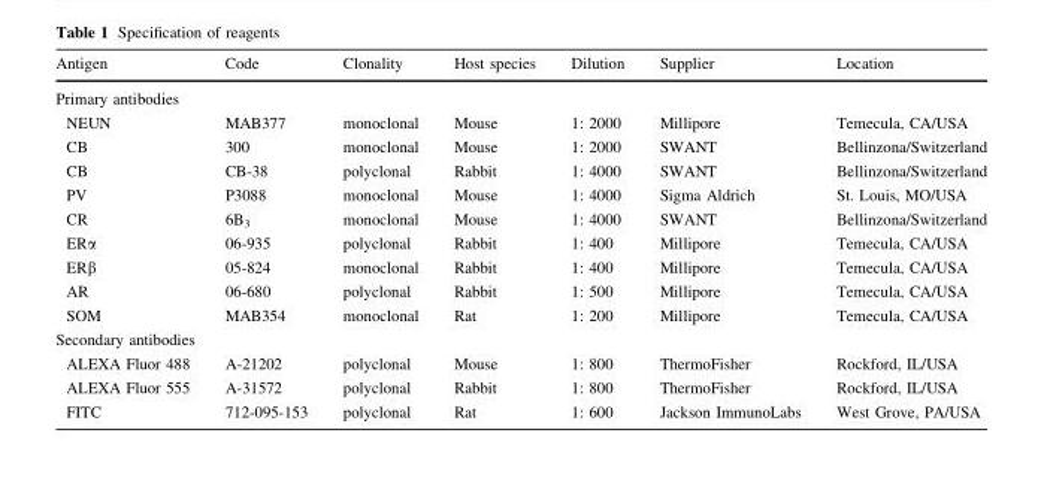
<table><thead><tr><td>Antigen</td><td>Code</td><td>Clonality</td><td>Host species</td><td>Dilution</td><td>Supplier</td><td>Location</td></tr></thead><tbody><tr><td colspan="7">Primary antibodies</td></tr><tr><td>NEUN</td><td>MAB377</td><td>monoclonal</td><td>Mouse</td><td>1: 2000</td><td>Millipore</td><td>Temecula, CA/USA</td></tr><tr><td>CB</td><td>300</td><td>monoclonal</td><td>Mouse</td><td>1: 2000</td><td>SWANT</td><td>Bellinzona/Switzerland</td></tr><tr><td>CB</td><td>CB-38</td><td>polyclonal</td><td>Rabbit</td><td>1: 4000</td><td>SWANT</td><td>Bellinzona/Switzerland</td></tr><tr><td>PV</td><td>P3088</td><td>monoclonal</td><td>Mouse</td><td>1: 4000</td><td>Sigma Aldrich</td><td>St. Louis, MO/USA</td></tr><tr><td>CR</td><td>6B<sub>3</sub></td><td>monoclonal</td><td>Mouse</td><td>1: 4000</td><td>SWANT</td><td>Bellinzona/Switzerland</td></tr><tr><td>ERα</td><td>06-935</td><td>polyclonal</td><td>Rabbit</td><td>1: 400</td><td>Millipore</td><td>Temecula, CA/USA</td></tr><tr><td>ERβ</td><td>05-824</td><td>monoclonal</td><td>Rabbit</td><td>1: 400</td><td>Millipore</td><td>Temecula, CA/USA</td></tr><tr><td>AR</td><td>06-680</td><td>polyclonal</td><td>Rabbit</td><td>1: 500</td><td>Millipore</td><td>Temecula, CA/USA</td></tr><tr><td>SOM</td><td>MAB354</td><td>monoclonal</td><td>Rat</td><td>1: 200</td><td>Millipore</td><td>Temecula, CA/USA</td></tr><tr><td colspan="7">Secondary antibodies</td></tr><tr><td>ALEXA Fluor 488</td><td>A-21202</td><td>polyclonal</td><td>Mouse</td><td>1: 800</td><td>ThermoFisher</td><td>Rockford, IL/USA</td></tr><tr><td>ALEXA Fluor 555</td><td>A-31572</td><td>polyclonal</td><td>Rabbit</td><td>1: 800</td><td>ThermoFisher</td><td>Rockford, IL/USA</td></tr><tr><td>FITC</td><td>712-095-153</td><td>polyclonal</td><td>Rat</td><td>1: 600</td><td>Jackson ImmunoLabs</td><td>West Grove, PA/USA</td></tr></tbody></table>